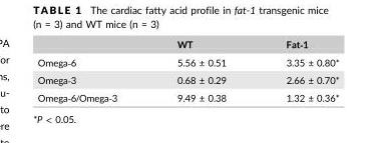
<table><thead><tr><td></td><td>WT</td><td>Fat‐1</td></tr></thead><tbody><tr><td>Omega‐6</td><td>5.56 ± 0.51</td><td>3.35 ± 0.80*</td></tr><tr><td>Omega‐3</td><td>0.68 ± 0.29</td><td>2.66 ± 0.70*</td></tr><tr><td>Omega‐6/Omega‐3</td><td>9.49 ± 0.38</td><td>1.32 ± 0.36*</td></tr></tbody></table>